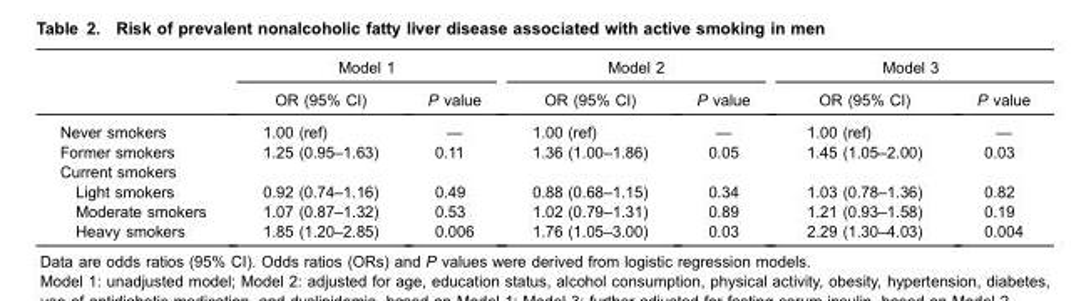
<table><thead><tr><td rowspan="2"></td><td colspan="2">Model 1</td><td colspan="2">Model 2</td><td colspan="2">Model 3</td></tr><tr><td>OR (95% CI)</td><td>P value</td><td>OR (95% CI)</td><td>P value</td><td>OR (95% CI)</td><td>P value</td></tr></thead><tbody><tr><td>Never smokers</td><td>1.00 (ref)</td><td>—</td><td>1.00 (ref)</td><td>—</td><td>1.00 (ref)</td><td>—</td></tr><tr><td>Former smokers</td><td>1.25 (0.95–1.63)</td><td>0.11</td><td>1.36 (1.00–1.86)</td><td>0.05</td><td>1.45 (1.05–2.00)</td><td>0.03</td></tr><tr><td colspan="7">Current smokers</td></tr><tr><td>Light smokers</td><td>0.92 (0.74–1.16)</td><td>0.49</td><td>0.88 (0.68–1.15)</td><td>0.34</td><td>1.03 (0.78–1.36)</td><td>0.82</td></tr><tr><td>Moderate smokers</td><td>1.07 (0.87–1.32)</td><td>0.53</td><td>1.02 (0.79–1.31)</td><td>0.89</td><td>1.21 (0.93–1.58)</td><td>0.19</td></tr><tr><td>Heavy smokers</td><td>1.85 (1.20–2.85)</td><td>0.006</td><td>1.76 (1.05–3.00)</td><td>0.03</td><td>2.29 (1.30–4.03)</td><td>0.004</td></tr></tbody></table>